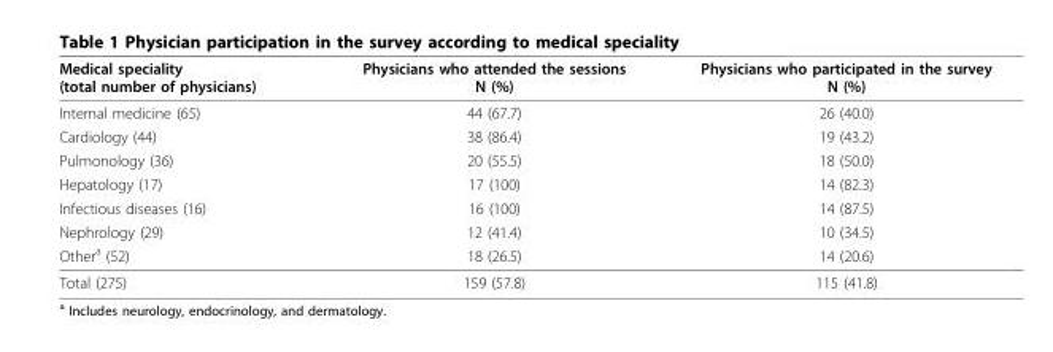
<table><thead><tr><td>Medical speciality (total number of physicians)</td><td>Physicians who attended the sessions N (%)</td><td>Physicians who participated in the survey N (%)</td></tr></thead><tbody><tr><td>Internal medicine (65)</td><td>44 (67.7)</td><td>26 (40.0)</td></tr><tr><td>Cardiology (44)</td><td>38 (86.4)</td><td>19 (43.2)</td></tr><tr><td>Pulmonology (36)</td><td>20 (55.5)</td><td>18 (50.0)</td></tr><tr><td>Hepatology (17)</td><td>17 (100)</td><td>14 (82.3)</td></tr><tr><td>Infectious diseases (16)</td><td>16 (100)</td><td>14 (87.5)</td></tr><tr><td>Nephrology (29)</td><td>12 (41.4)</td><td>10 (34.5)</td></tr><tr><td>Other<sup>a</sup> (52)</td><td>18 (26.5)</td><td>14 (20.6)</td></tr><tr><td>Total (275)</td><td>159 (57.8)</td><td>115 (41.8)</td></tr></tbody></table>